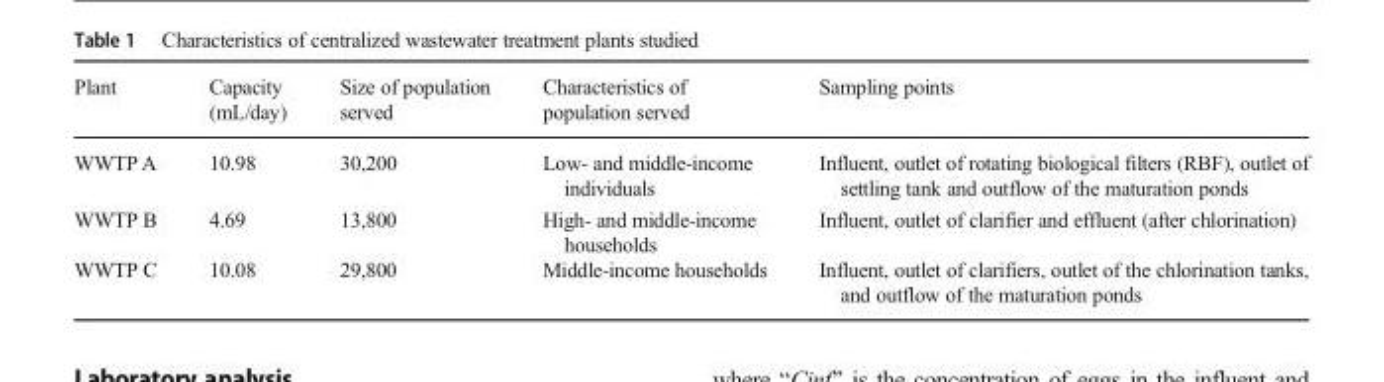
<table><thead><tr><td>Plant</td><td>Capacity (mL/day)</td><td>Size of population served</td><td>Characteristics of population served</td><td>Sampling points</td></tr></thead><tbody><tr><td>WWTP A</td><td>10.98</td><td>30,200</td><td>Low- and middle-income individuals</td><td>Influent, outlet of rotating biological filters (RBF), outlet of settling tank and outflow of the maturation ponds</td></tr><tr><td>WWTP B</td><td>4.69</td><td>13,800</td><td>High- and middle-income households</td><td>Influent, outlet of clarifier and effluent (after chlorination)</td></tr><tr><td>WWTP C</td><td>10.08</td><td>29,800</td><td>Middle-income households</td><td>Influent, outlet of clarifiers, outlet of the chlorination tanks, and outflow of the maturation ponds</td></tr></tbody></table>